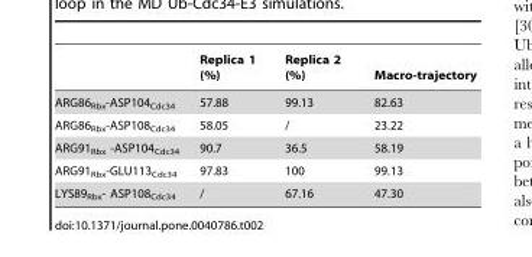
<table><thead><tr><td></td><td>Replica 1 (%)</td><td>Replica 2 (%)</td><td>Macro-trajectory</td></tr></thead><tbody><tr><td>ARG86<sub>Rbx</sub>-ASP104<sub>Cdc34</sub></td><td>57.88</td><td>99.13</td><td>82.63</td></tr><tr><td>ARG86<sub>Rbx</sub>-ASP108<sub>Cdc34</sub></td><td>58.05</td><td>/</td><td>23.22</td></tr><tr><td>ARG91<sub>Rbx</sub> -ASP104<sub>Cdc34</sub></td><td>90.7</td><td>36.5</td><td>58.19</td></tr><tr><td>ARG91<sub>Rbx</sub>-GLU113<sub>Cdc34</sub></td><td>97.83</td><td>100</td><td>99.13</td></tr><tr><td>LYS89<sub>Rbx</sub>- ASP108<sub>Cdc34</sub></td><td>/</td><td>67.16</td><td>47.30</td></tr></tbody></table>